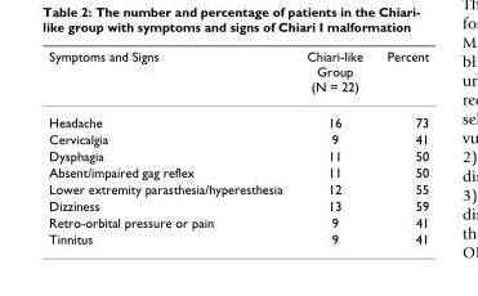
<table><thead><tr><td>Symptoms and Signs</td><td>Chiari-like Group (N = 22)</td><td>Percent</td></tr></thead><tbody><tr><td>Headache</td><td>16</td><td>73</td></tr><tr><td>Cervicalgia</td><td>9</td><td>41</td></tr><tr><td>Dysphagia</td><td>11</td><td>50</td></tr><tr><td>Absent/impaired gag reflex</td><td>11</td><td>50</td></tr><tr><td>Lower extremity parasthesia/hyperesthesia</td><td>12</td><td>55</td></tr><tr><td>Dizziness</td><td>13</td><td>59</td></tr><tr><td>Retro-orbital pressure or pain</td><td>9</td><td>41</td></tr><tr><td>Tinnitus</td><td>9</td><td>41</td></tr></tbody></table>